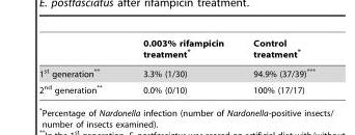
<table><thead><tr><td></td><td>0.003% rifampicin treatment*</td><td>Control treatment*</td></tr></thead><tbody><tr><td>1<sup>st</sup> generation**</td><td>3.3% (1/30)</td><td>94.9% (37/39)***</td></tr><tr><td>2<sup>nd</sup> generation**</td><td>0.0% (0/10)</td><td>100% (17/17)</td></tr></tbody></table>